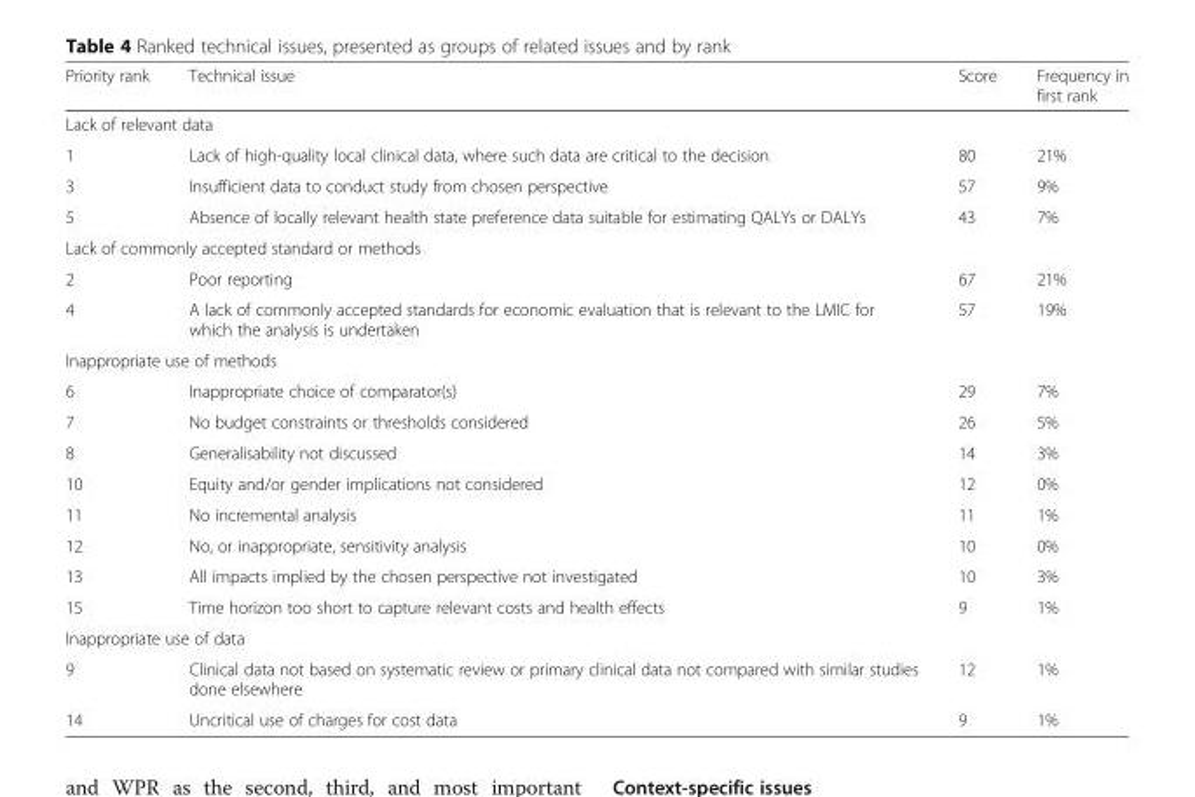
<table><thead><tr><td>Priority rank</td><td>Technical issue</td><td>Score</td><td>Frequency in first rank</td></tr></thead><tbody><tr><td colspan="4">Lack of relevant data</td></tr><tr><td>1</td><td>Lack of high-quality local clinical data, where such data are critical to the decision</td><td>80</td><td>21%</td></tr><tr><td>3</td><td>Insufficient data to conduct study from chosen perspective</td><td>57</td><td>9%</td></tr><tr><td>5</td><td>Absence of locally relevant health state preference data suitable for estimating QALYs or DALYs</td><td>43</td><td>7%</td></tr><tr><td colspan="4">Lack of commonly accepted standard or methods</td></tr><tr><td>2</td><td>Poor reporting</td><td>67</td><td>21%</td></tr><tr><td>4</td><td>A lack of commonly accepted standards for economic evaluation that is relevant to the LMIC for which the analysis is undertaken</td><td>57</td><td>19%</td></tr><tr><td colspan="4">Inappropriate use of methods</td></tr><tr><td>6</td><td>Inappropriate choice of comparator(s)</td><td>29</td><td>7%</td></tr><tr><td>7</td><td>No budget constraints or thresholds considered</td><td>26</td><td>5%</td></tr><tr><td>8</td><td>Generalisability not discussed</td><td>14</td><td>3%</td></tr><tr><td>10</td><td>Equity and/or gender implications not considered</td><td>12</td><td>0%</td></tr><tr><td>11</td><td>No incremental analysis</td><td>11</td><td>1%</td></tr><tr><td>12</td><td>No, or inappropriate, sensitivity analysis</td><td>10</td><td>0%</td></tr><tr><td>13</td><td>All impacts implied by the chosen perspective not investigated</td><td>10</td><td>3%</td></tr><tr><td>15</td><td>Time horizon too short to capture relevant costs and health effects</td><td>9</td><td>1%</td></tr><tr><td colspan="4">Inappropriate use of data</td></tr><tr><td>9</td><td>Clinical data not based on systematic review or primary clinical data not compared with similar studies done elsewhere</td><td>12</td><td>1%</td></tr><tr><td>14</td><td>Uncritical use of charges for cost data</td><td>9</td><td>1%</td></tr></tbody></table>